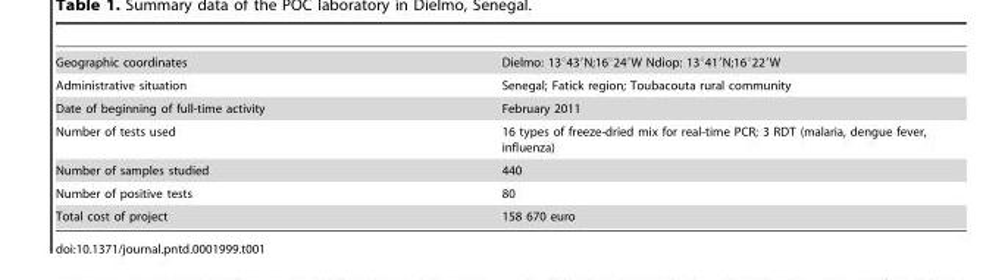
<table><tbody><tr><td>Geographic coordinates</td><td>Dielmo: 13°43′N;16°24′W Ndiop: 13°41′N;16°22′W</td></tr><tr><td>Administrative situation</td><td>Senegal; Fatick region; Toubacouta rural community</td></tr><tr><td>Date of beginning of full-time activity</td><td>February 2011</td></tr><tr><td>Number of tests used</td><td>16 types of freeze-dried mix for real-time PCR; 3 RDT (malaria, dengue fever, influenza)</td></tr><tr><td>Number of samples studied</td><td>440</td></tr><tr><td>Number of positive tests</td><td>80</td></tr><tr><td>Total cost of project</td><td>158 670 euro</td></tr></tbody></table>